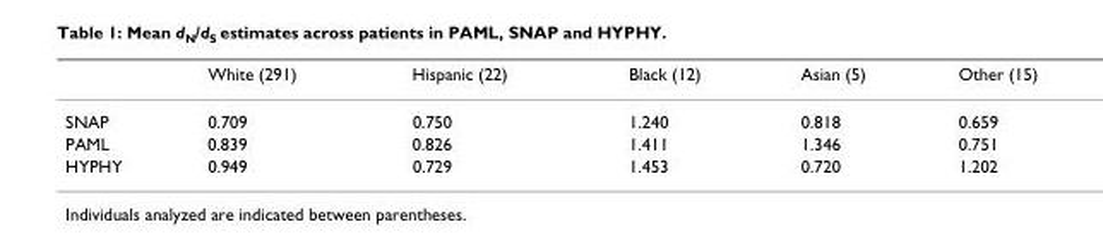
<table><thead><tr><td></td><td>White (291)</td><td>Hispanic (22)</td><td>Black (12)</td><td>Asian (5)</td><td>Other (15)</td></tr></thead><tbody><tr><td>SNAP</td><td>0.709</td><td>0.750</td><td>1.240</td><td>0.818</td><td>0.659</td></tr><tr><td>PAML</td><td>0.839</td><td>0.826</td><td>1.411</td><td>1.346</td><td>0.751</td></tr><tr><td>HYPHY</td><td>0.949</td><td>0.729</td><td>1.453</td><td>0.720</td><td>1.202</td></tr></tbody></table>